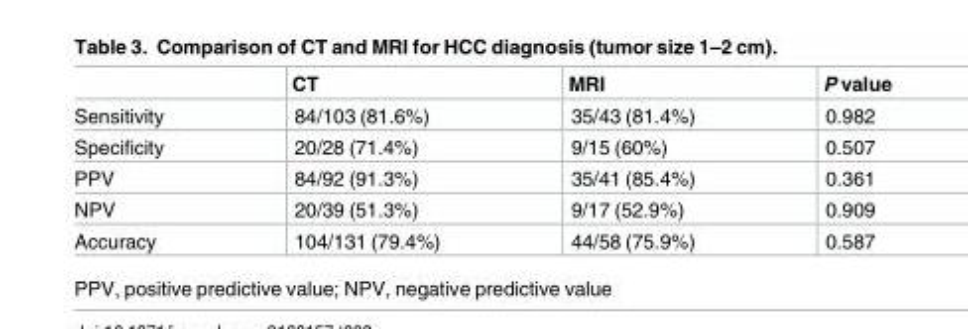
<table><thead><tr><td></td><td>CT</td><td>MRI</td><td>P value</td></tr></thead><tbody><tr><td>Sensitivity</td><td>84/103 (81.6%)</td><td>35/43 (81.4%)</td><td>0.982</td></tr><tr><td>Specificity</td><td>20/28 (71.4%)</td><td>9/15 (60%)</td><td>0.507</td></tr><tr><td>PPV</td><td>84/92 (91.3%)</td><td>35/41 (85.4%)</td><td>0.361</td></tr><tr><td>NPV</td><td>20/39 (51.3%)</td><td>9/17 (52.9%)</td><td>0.909</td></tr><tr><td>Accuracy</td><td>104/131 (79.4%)</td><td>44/58 (75.9%)</td><td>0.587</td></tr></tbody></table>